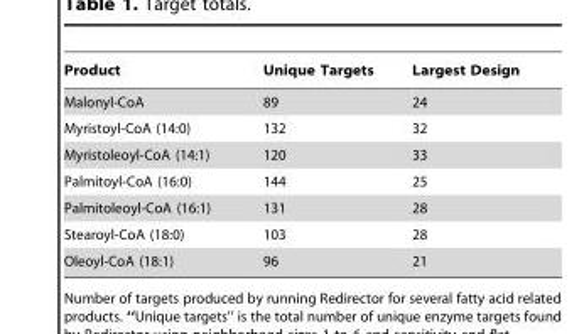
<table><thead><tr><td>Product</td><td>Unique Targets</td><td>Largest Design</td></tr></thead><tbody><tr><td>Malonyl-CoA</td><td>89</td><td>24</td></tr><tr><td>Myristoyl-CoA (14:0)</td><td>132</td><td>32</td></tr><tr><td>Myristoleoyl-CoA (14:1)</td><td>120</td><td>33</td></tr><tr><td>Palmitoyl-CoA (16:0)</td><td>144</td><td>25</td></tr><tr><td>Palmitoleoyl-CoA (16:1)</td><td>131</td><td>28</td></tr><tr><td>Stearoyl-CoA (18:0)</td><td>103</td><td>28</td></tr><tr><td>Oleoyl-CoA (18:1)</td><td>96</td><td>21</td></tr></tbody></table>